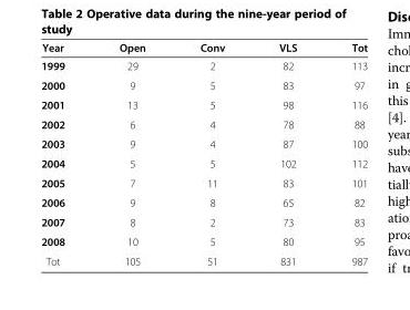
<table><thead><tr><td>Year</td><td>Open</td><td>Conv</td><td>VLS</td><td>Tot</td></tr></thead><tbody><tr><td>1999</td><td>29</td><td>2</td><td>82</td><td>113</td></tr><tr><td>2000</td><td>9</td><td>5</td><td>83</td><td>97</td></tr><tr><td>2001</td><td>13</td><td>5</td><td>98</td><td>116</td></tr><tr><td>2002</td><td>6</td><td>4</td><td>78</td><td>88</td></tr><tr><td>2003</td><td>9</td><td>4</td><td>87</td><td>100</td></tr><tr><td>2004</td><td>5</td><td>5</td><td>102</td><td>112</td></tr><tr><td>2005</td><td>7</td><td>11</td><td>83</td><td>101</td></tr><tr><td>2006</td><td>9</td><td>8</td><td>65</td><td>82</td></tr><tr><td>2007</td><td>8</td><td>2</td><td>73</td><td>83</td></tr><tr><td>2008</td><td>10</td><td>5</td><td>80</td><td>95</td></tr><tr><td>Tot</td><td>105</td><td>51</td><td>831</td><td>987</td></tr></tbody></table>